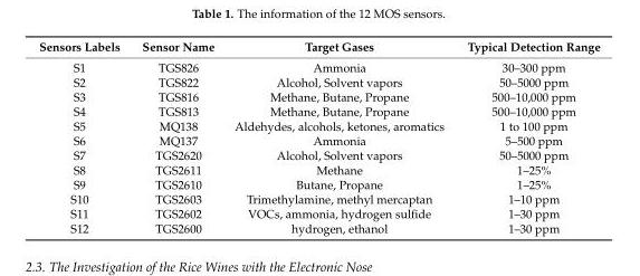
<table><thead><tr><td>Sensors Labels</td><td>Sensor Name</td><td>Target Gases</td><td>Typical Detection Range</td></tr></thead><tbody><tr><td>S1</td><td>TGS826</td><td>Ammonia</td><td>30–300 ppm</td></tr><tr><td>S2</td><td>TGS822</td><td>Alcohol, Solvent vapors</td><td>50–5000 ppm</td></tr><tr><td>S3</td><td>TGS816</td><td>Methane, Butane, Propane</td><td>500–10,000 ppm</td></tr><tr><td>S4</td><td>TGS813</td><td>Methane, Butane, Propane</td><td>500–10,000 ppm</td></tr><tr><td>S5</td><td>MQ138</td><td>Aldehydes, alcohols, ketones, aromatics</td><td>1 to 100 ppm</td></tr><tr><td>S6</td><td>MQ137</td><td>Ammonia</td><td>5–500 ppm</td></tr><tr><td>S7</td><td>TGS2620</td><td>Alcohol, Solvent vapors</td><td>50–5000 ppm</td></tr><tr><td>S8</td><td>TGS2611</td><td>Methane</td><td>1–25%</td></tr><tr><td>S9</td><td>TGS2610</td><td>Butane, Propane</td><td>1–25%</td></tr><tr><td>S10</td><td>TGS2603</td><td>Trimethylamine, methyl mercaptan</td><td>1–10 ppm</td></tr><tr><td>S11</td><td>TGS2602</td><td>VOCs, ammonia, hydrogen sulfide</td><td>1–30 ppm</td></tr><tr><td>S12</td><td>TGS2600</td><td>hydrogen, ethanol</td><td>1–30 ppm</td></tr></tbody></table>